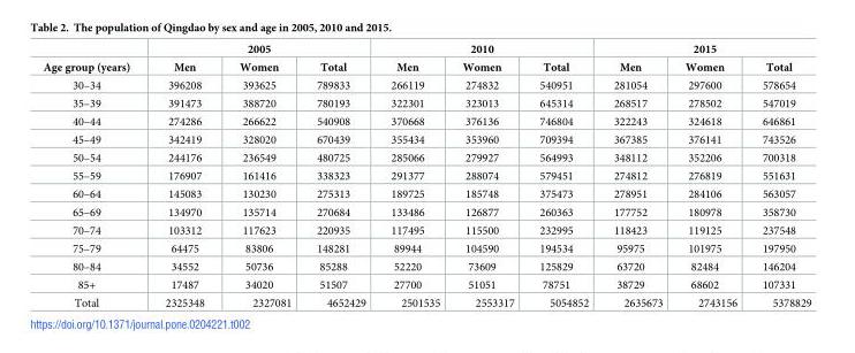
<table><thead><tr><td rowspan="2">Age group (years)</td><td colspan="3">2005</td><td colspan="3">2010</td><td colspan="3">2015</td></tr><tr><td>Men</td><td>Women</td><td>Total</td><td>Men</td><td>Women</td><td>Total</td><td>Men</td><td>Women</td><td>Total</td></tr></thead><tbody><tr><td>30–34</td><td>396208</td><td>393625</td><td>789833</td><td>266119</td><td>274832</td><td>540951</td><td>281054</td><td>297600</td><td>578654</td></tr><tr><td>35–39</td><td>391473</td><td>388720</td><td>780193</td><td>322301</td><td>323013</td><td>645314</td><td>268517</td><td>278502</td><td>547019</td></tr><tr><td>40–44</td><td>274286</td><td>266622</td><td>540908</td><td>370668</td><td>376136</td><td>746804</td><td>322243</td><td>324618</td><td>646861</td></tr><tr><td>45–49</td><td>342419</td><td>328020</td><td>670439</td><td>355434</td><td>353960</td><td>709394</td><td>367385</td><td>376141</td><td>743526</td></tr><tr><td>50–54</td><td>244176</td><td>236549</td><td>480725</td><td>285066</td><td>279927</td><td>564993</td><td>348112</td><td>352206</td><td>700318</td></tr><tr><td>55–59</td><td>176907</td><td>161416</td><td>338323</td><td>291377</td><td>288074</td><td>579451</td><td>274812</td><td>276819</td><td>551631</td></tr><tr><td>60–64</td><td>145083</td><td>130230</td><td>275313</td><td>189725</td><td>185748</td><td>375473</td><td>278951</td><td>284106</td><td>563057</td></tr><tr><td>65–69</td><td>134970</td><td>135714</td><td>270684</td><td>133486</td><td>126877</td><td>260363</td><td>177752</td><td>180978</td><td>358730</td></tr><tr><td>70–74</td><td>103312</td><td>117623</td><td>220935</td><td>117495</td><td>115500</td><td>232995</td><td>118423</td><td>119125</td><td>237548</td></tr><tr><td>75–79</td><td>64475</td><td>83806</td><td>148281</td><td>89944</td><td>104590</td><td>194534</td><td>95975</td><td>101975</td><td>197950</td></tr><tr><td>80–84</td><td>34552</td><td>50736</td><td>85288</td><td>52220</td><td>73609</td><td>125829</td><td>63720</td><td>82484</td><td>146204</td></tr><tr><td>85+</td><td>17487</td><td>34020</td><td>51507</td><td>27700</td><td>51051</td><td>78751</td><td>38729</td><td>68602</td><td>107331</td></tr><tr><td>Total</td><td>2325348</td><td>2327081</td><td>4652429</td><td>2501535</td><td>2553317</td><td>5054852</td><td>2635673</td><td>2743156</td><td>5378829</td></tr></tbody></table>